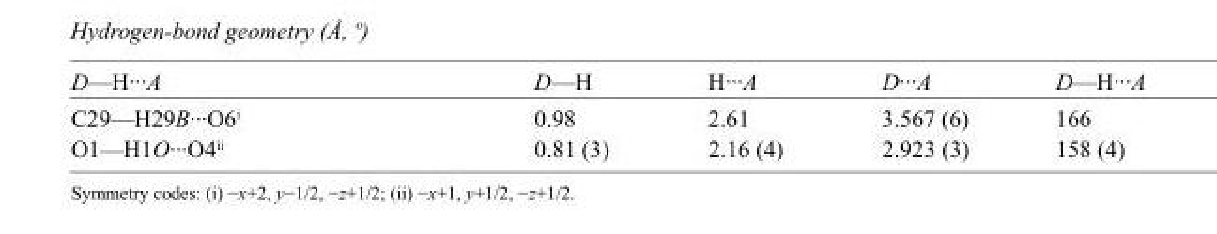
<table><tbody><tr><td>D—H···A</td><td>D—H</td><td>H···A</td><td>D···A</td><td>D—H···A</td></tr><tr><td>C29—H29B···O6<sup>i</sup></td><td>0.98</td><td>2.61</td><td>3.567 (6)</td><td>166</td></tr><tr><td>O1—H1O···O4<sup>ii</sup></td><td>0.81 (3)</td><td>2.16 (4)</td><td>2.923 (3)</td><td>158 (4)</td></tr></tbody></table>